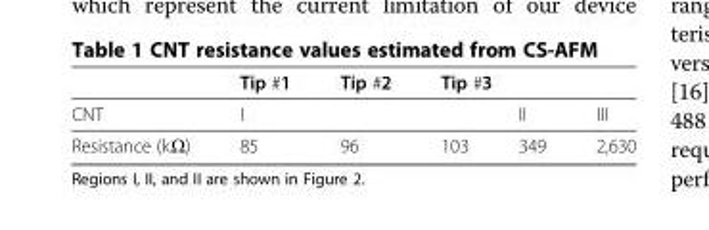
<table><thead><tr><td rowspan="3">CNT Resistance (kΩ)</td><td>Tip #1</td><td>Tip #2</td><td colspan="3">Tip #3</td></tr><tr><td colspan="3">I</td><td rowspan="2">II 349</td><td rowspan="2">III 2,630</td></tr><tr><td>85</td><td>96</td><td>103</td></tr></thead><tbody></tbody></table>